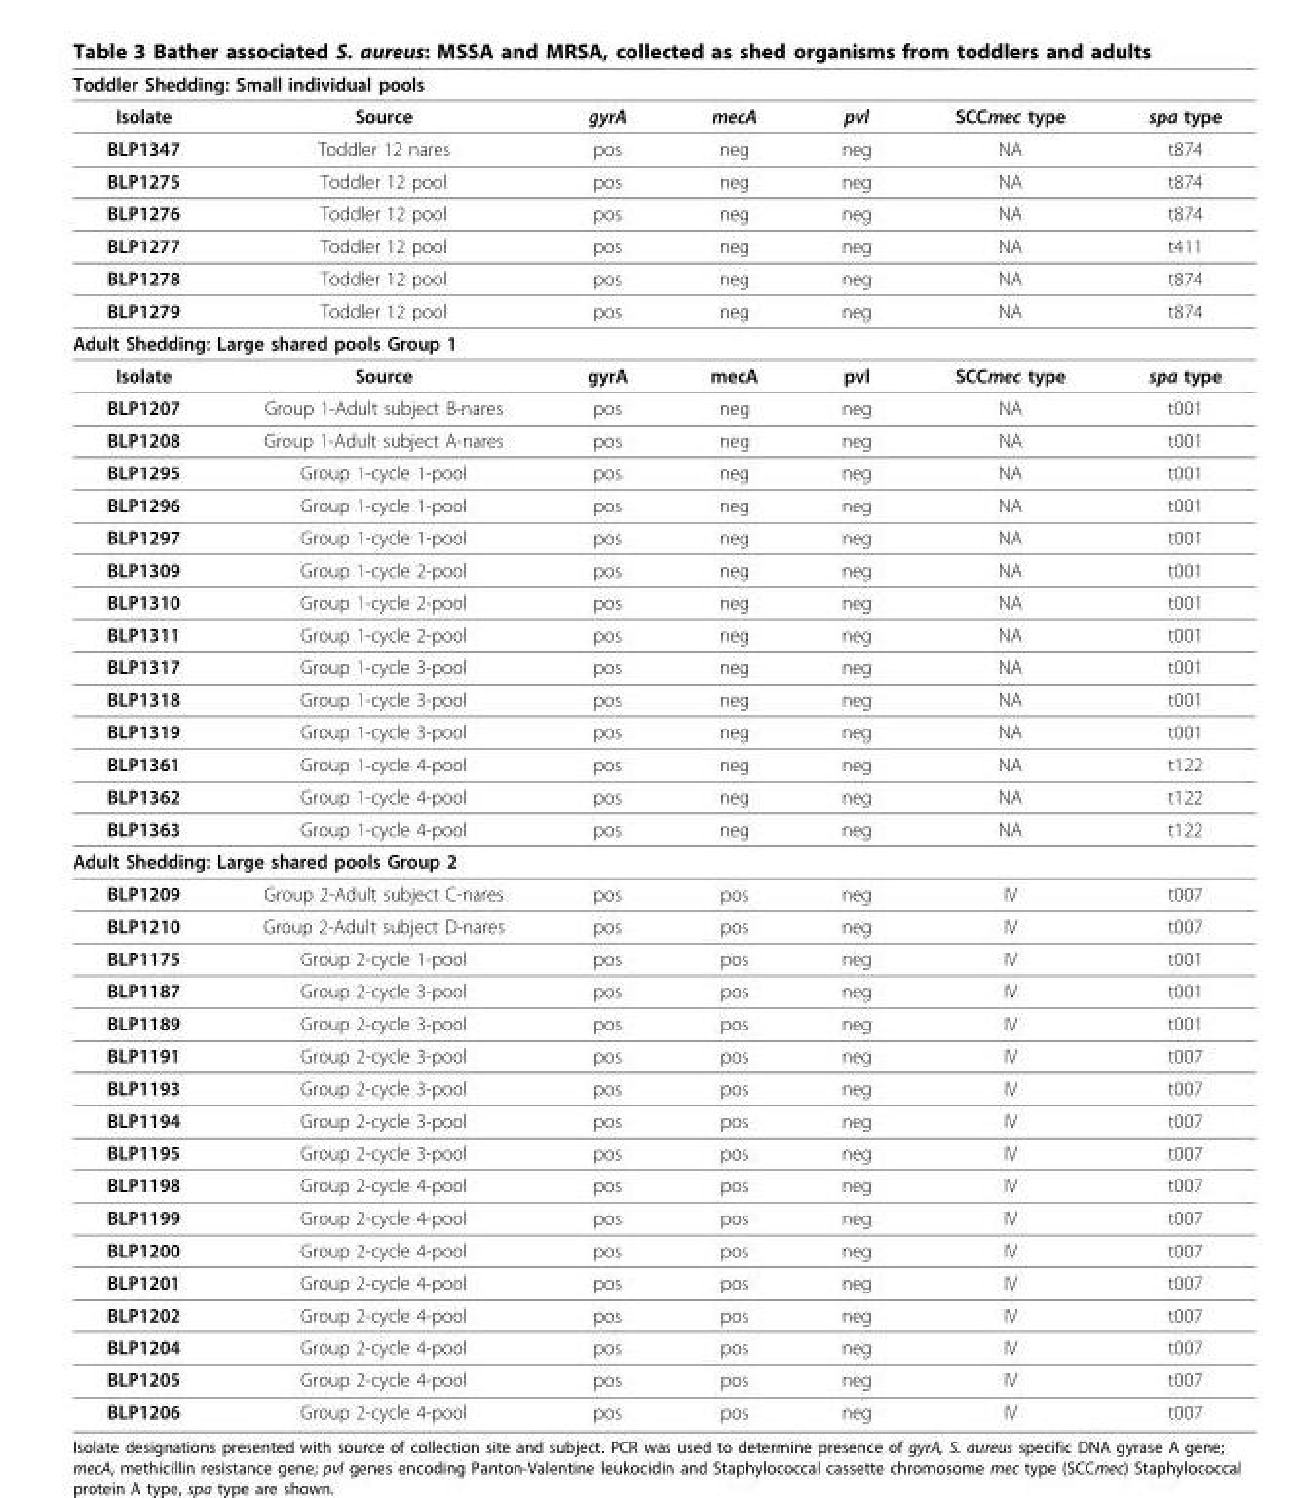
<table><thead><tr><td colspan="7">Toddler Shedding: Small individual pools</td></tr><tr><td>Isolate</td><td>Source</td><td>gyrA</td><td>mecA</td><td>pvl</td><td>SCCmec type</td><td>spa type</td></tr></thead><tbody><tr><td>BLP1347</td><td>Toddler 12 nares</td><td>pos</td><td>neg</td><td>neg</td><td>NA</td><td>t874</td></tr><tr><td>BLP1275</td><td>Toddler 12 pool</td><td>pos</td><td>neg</td><td>neg</td><td>NA</td><td>t874</td></tr><tr><td>BLP1276</td><td>Toddler 12 pool</td><td>pos</td><td>neg</td><td>neg</td><td>NA</td><td>t874</td></tr><tr><td>BLP1277</td><td>Toddler 12 pool</td><td>pos</td><td>neg</td><td>neg</td><td>NA</td><td>t411</td></tr><tr><td>BLP1278</td><td>Toddler 12 pool</td><td>pos</td><td>neg</td><td>neg</td><td>NA</td><td>t874</td></tr><tr><td>BLP1279</td><td>Toddler 12 pool</td><td>pos</td><td>neg</td><td>neg</td><td>NA</td><td>t874</td></tr><tr><td colspan="7">Adult Shedding: Large shared pools Group 1</td></tr><tr><td>Isolate</td><td>Source</td><td>gyrA</td><td>mecA</td><td>pvl</td><td>SCCmec type</td><td>spa type</td></tr><tr><td>BLP1207</td><td>Group 1-Adult subject B-nares</td><td>pos</td><td>neg</td><td>neg</td><td>NA</td><td>t001</td></tr><tr><td>BLP1208</td><td>Group 1-Adult subject A-nares</td><td>pos</td><td>neg</td><td>neg</td><td>NA</td><td>t001</td></tr><tr><td>BLP1295</td><td>Group 1-cycle 1-pool</td><td>pos</td><td>neg</td><td>neg</td><td>NA</td><td>t001</td></tr><tr><td>BLP1296</td><td>Group 1-cycle 1-pool</td><td>pos</td><td>neg</td><td>neg</td><td>NA</td><td>t001</td></tr><tr><td>BLP1297</td><td>Group 1-cycle 1-pool</td><td>pos</td><td>neg</td><td>neg</td><td>NA</td><td>t001</td></tr><tr><td>BLP1309</td><td>Group 1-cycle 2-pool</td><td>pos</td><td>neg</td><td>neg</td><td>NA</td><td>t001</td></tr><tr><td>BLP1310</td><td>Group 1-cycle 2-pool</td><td>pos</td><td>neg</td><td>neg</td><td>NA</td><td>t001</td></tr><tr><td>BLP1311</td><td>Group 1-cycle 2-pool</td><td>pos</td><td>neg</td><td>neg</td><td>NA</td><td>t001</td></tr><tr><td>BLP1317</td><td>Group 1-cycle 3-pool</td><td>pos</td><td>neg</td><td>neg</td><td>NA</td><td>t001</td></tr><tr><td>BLP1318</td><td>Group 1-cycle 3-pool</td><td>pos</td><td>neg</td><td>neg</td><td>NA</td><td>t001</td></tr><tr><td>BLP1319</td><td>Group 1-cycle 3-pool</td><td>pos</td><td>neg</td><td>neg</td><td>NA</td><td>t001</td></tr><tr><td>BLP1361</td><td>Group 1-cycle 4-pool</td><td>pos</td><td>neg</td><td>neg</td><td>NA</td><td>t122</td></tr><tr><td>BLP1362</td><td>Group 1-cycle 4-pool</td><td>pos</td><td>neg</td><td>neg</td><td>NA</td><td>t122</td></tr><tr><td>BLP1363</td><td>Group 1-cycle 4-pool</td><td>pos</td><td>neg</td><td>neg</td><td>NA</td><td>t122</td></tr><tr><td colspan="7">Adult Shedding: Large shared pools Group 2</td></tr><tr><td>BLP1209</td><td>Group 2-Adult subject C-nares</td><td>pos</td><td>pos</td><td>neg</td><td>IV</td><td>t007</td></tr><tr><td>BLP1210</td><td>Group 2-Adult subject D-nares</td><td>pos</td><td>pos</td><td>neg</td><td>IV</td><td>t007</td></tr><tr><td>BLP1175</td><td>Group 2-cycle 1-pool</td><td>pos</td><td>pos</td><td>neg</td><td>IV</td><td>t001</td></tr><tr><td>BLP1187</td><td>Group 2-cycle 3-pool</td><td>pos</td><td>pos</td><td>neg</td><td>IV</td><td>t001</td></tr><tr><td>BLP1189</td><td>Group 2-cycle 3-pool</td><td>pos</td><td>pos</td><td>neg</td><td>IV</td><td>t001</td></tr><tr><td>BLP1191</td><td>Group 2-cycle 3-pool</td><td>pos</td><td>pos</td><td>neg</td><td>IV</td><td>t007</td></tr><tr><td>BLP1193</td><td>Group 2-cycle 3-pool</td><td>pos</td><td>pos</td><td>neg</td><td>IV</td><td>t007</td></tr><tr><td>BLP1194</td><td>Group 2-cycle 3-pool</td><td>pos</td><td>pos</td><td>neg</td><td>IV</td><td>t007</td></tr><tr><td>BLP1195</td><td>Group 2-cycle 3-pool</td><td>pos</td><td>pos</td><td>neg</td><td>IV</td><td>t007</td></tr><tr><td>BLP1198</td><td>Group 2-cycle 4-pool</td><td>pos</td><td>pos</td><td>neg</td><td>IV</td><td>t007</td></tr><tr><td>BLP1199</td><td>Group 2-cycle 4-pool</td><td>pos</td><td>pos</td><td>neg</td><td>IV</td><td>t007</td></tr><tr><td>BLP1200</td><td>Group 2-cycle 4-pool</td><td>pos</td><td>pos</td><td>neg</td><td>IV</td><td>t007</td></tr><tr><td>BLP1201</td><td>Group 2-cycle 4-pool</td><td>pos</td><td>pos</td><td>neg</td><td>IV</td><td>t007</td></tr><tr><td>BLP1202</td><td>Group 2-cycle 4-pool</td><td>pos</td><td>pos</td><td>neg</td><td>IV</td><td>t007</td></tr><tr><td>BLP1204</td><td>Group 2-cycle 4-pool</td><td>pos</td><td>pos</td><td>neg</td><td>IV</td><td>t007</td></tr><tr><td>BLP1205</td><td>Group 2-cycle 4-pool</td><td>pos</td><td>pos</td><td>neg</td><td>IV</td><td>t007</td></tr><tr><td>BLP1206</td><td>Group 2-cycle 4-pool</td><td>pos</td><td>pos</td><td>neg</td><td>IV</td><td>t007</td></tr></tbody></table>